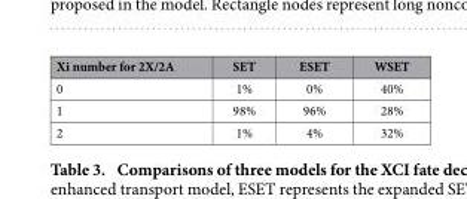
<table><thead><tr><td>Xi number for 2X/2A</td><td>SET</td><td>ESET</td><td>WSET</td></tr></thead><tbody><tr><td>0</td><td>1%</td><td>0%</td><td>40%</td></tr><tr><td>1</td><td>98%</td><td>96%</td><td>28%</td></tr><tr><td>2</td><td>1%</td><td>4%</td><td>32%</td></tr></tbody></table>